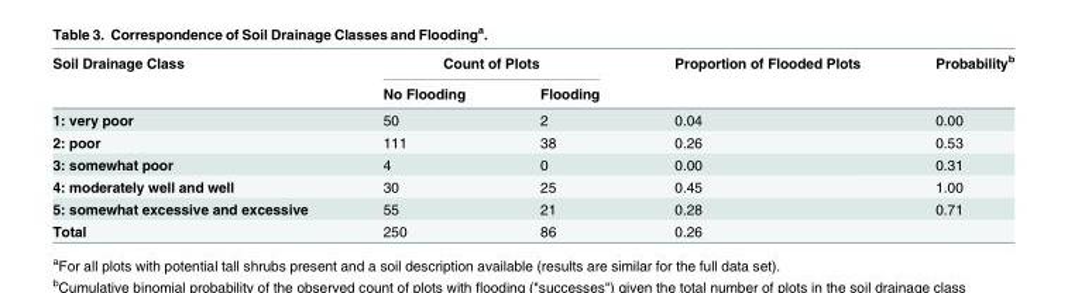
<table><thead><tr><td rowspan="2">Soil Drainage Class</td><td colspan="2">Count of Plots</td><td rowspan="2">Proportion of Flooded Plots</td><td rowspan="2">Probability<sup>b</sup></td></tr><tr><td>No Flooding</td><td>Flooding</td></tr></thead><tbody><tr><td>1: very poor</td><td>50</td><td>2</td><td>0.04</td><td>0.00</td></tr><tr><td>2: poor</td><td>111</td><td>38</td><td>0.26</td><td>0.53</td></tr><tr><td>3: somewhat poor</td><td>4</td><td>0</td><td>0.00</td><td>0.31</td></tr><tr><td>4: moderately well and well</td><td>30</td><td>25</td><td>0.45</td><td>1.00</td></tr><tr><td>5: somewhat excessive and excessive</td><td>55</td><td>21</td><td>0.28</td><td>0.71</td></tr><tr><td>Total</td><td>250</td><td>86</td><td>0.26</td><td></td></tr></tbody></table>